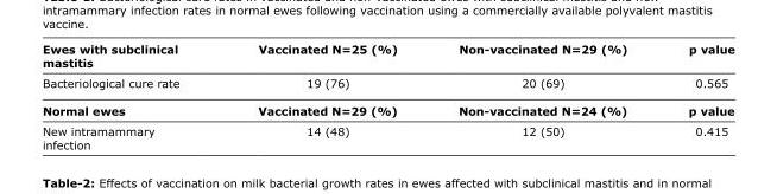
<table><thead><tr><td>Ewes with subclinical mastitis</td><td>Vaccinated N=25 (%)</td><td>Non-vaccinated N=29 (%)</td><td>p value</td></tr></thead><tbody><tr><td>Bacteriological cure rate</td><td>19 (76)</td><td>20 (69)</td><td>0.565</td></tr><tr><td>Normal ewes</td><td>Vaccinated N=29 (%)</td><td>Non-vaccinated N=24 (%)</td><td>p value</td></tr><tr><td>New intramammary infection</td><td>14 (48)</td><td>12 (50)</td><td>0.415</td></tr></tbody></table>